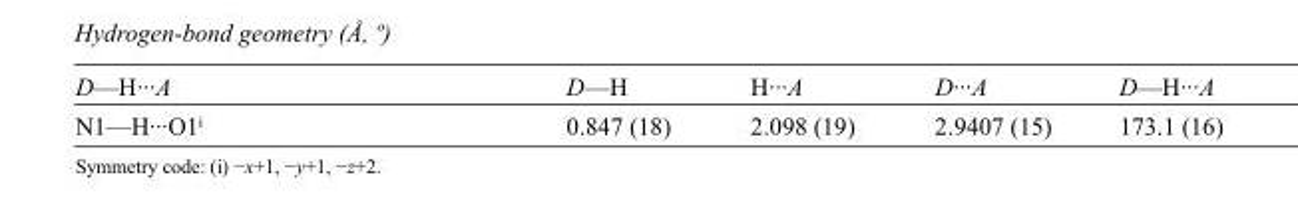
<table><tbody><tr><td>D—H···A</td><td>D—H</td><td>H···A</td><td>D···A</td><td>D—H···A</td></tr><tr><td>N1—H···O1<sup>i</sup></td><td>0.847 (18)</td><td>2.098 (19)</td><td>2.9407 (15)</td><td>173.1 (16)</td></tr></tbody></table>